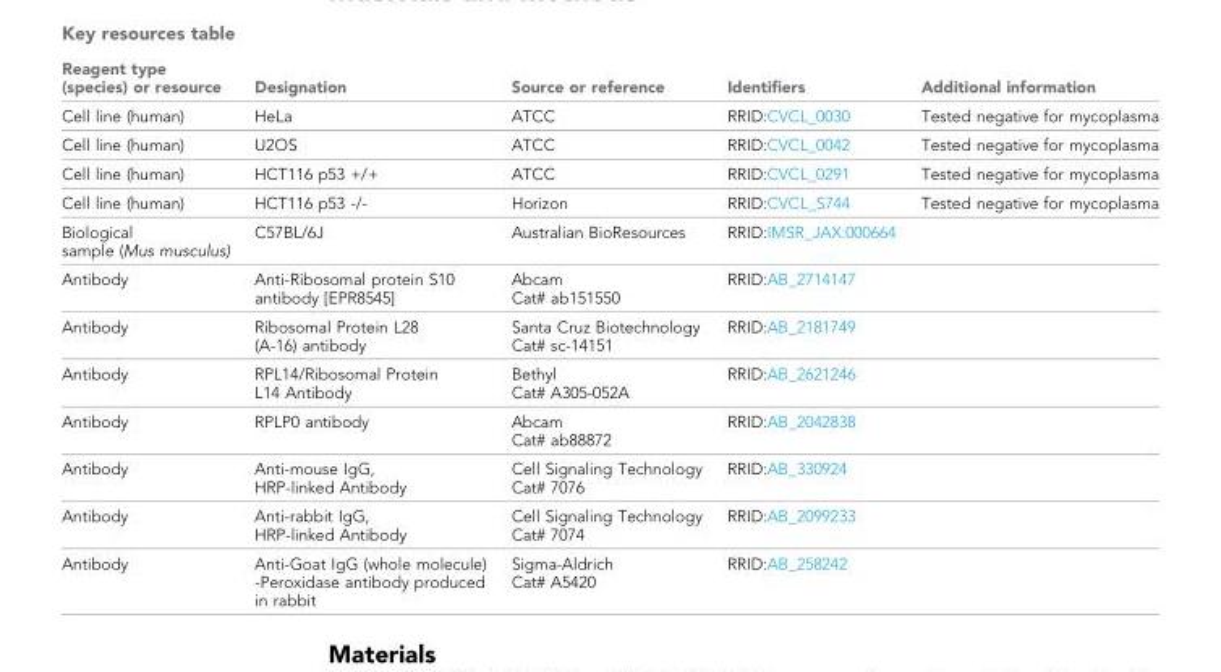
<table><thead><tr><td>Reagent type (species) or resource</td><td>Designation</td><td>Source or reference</td><td>Identifiers</td><td>Additional information</td></tr></thead><tbody><tr><td>Cell line (human)</td><td>HeLa</td><td>ATCC</td><td>RRID:CVCL_0030</td><td>Tested negative for mycoplasma</td></tr><tr><td>Cell line (human)</td><td>U2OS</td><td>ATCC</td><td>RRID:CVCL_0042</td><td>Tested negative for mycoplasma</td></tr><tr><td>Cell line (human)</td><td>HCT116 p53 +/+</td><td>ATCC</td><td>RRID:CVCL_0291</td><td>Tested negative for mycoplasma</td></tr><tr><td>Cell line (human)</td><td>HCT116 p53 -/-</td><td>Horizon</td><td>RRID:CVCL_S744</td><td>Tested negative for mycoplasma</td></tr><tr><td>Biological sample (Mus musculus)</td><td>C57BL/6J</td><td>Australian BioResources</td><td>RRID:IMSR_JAX:000664</td><td></td></tr><tr><td>Antibody</td><td>Anti-Ribosomal protein S10 antibody [EPR8545]</td><td>Abcam Cat# ab151550</td><td>RRID:AB_2714147</td><td></td></tr><tr><td>Antibody</td><td>Ribosomal Protein L28 (A-16) antibody</td><td>Santa Cruz Biotechnology Cat# sc-14151</td><td>RRID:AB_2181749</td><td></td></tr><tr><td>Antibody</td><td>RPL14/Ribosomal Protein L14 Antibody</td><td>Bethyl Cat# A305-052A</td><td>RRID:AB_2621246</td><td></td></tr><tr><td>Antibody</td><td>RPLP0 antibody</td><td>Abcam Cat# ab88872</td><td>RRID:AB_2042838</td><td></td></tr><tr><td>Antibody</td><td>Anti-mouse IgG, HRP-linked Antibody</td><td>Cell Signaling Technology Cat# 7076</td><td>RRID:AB_330924</td><td></td></tr><tr><td>Antibody</td><td>Anti-rabbit IgG, HRP-linked Antibody</td><td>Cell Signaling Technology Cat# 7074</td><td>RRID:AB_2099233</td><td></td></tr><tr><td>Antibody</td><td>Anti-Goat IgG (whole molecule) -Peroxidase antibody produced in rabbit</td><td>Sigma-Aldrich Cat# A5420</td><td>RRID:AB_258242</td><td></td></tr></tbody></table>